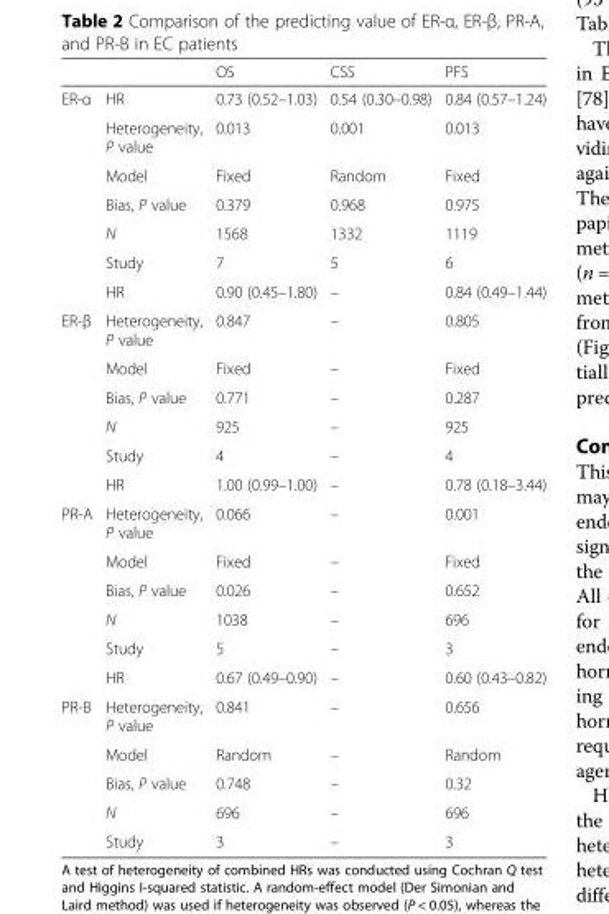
<table><thead><tr><td></td><td></td><td>OS</td><td>CSS</td><td>PFS</td></tr></thead><tbody><tr><td rowspan="7">ER-α</td><td>HR</td><td>0.73 (0.52–1.03)</td><td>0.54 (0.30–0.98)</td><td>0.84 (0.57–1.24)</td></tr><tr><td>Heterogeneity, P value</td><td>0.013</td><td>0.001</td><td>0.013</td></tr><tr><td>Model</td><td>Fixed</td><td>Random</td><td>Fixed</td></tr><tr><td>Bias, P value</td><td>0.379</td><td>0.968</td><td>0.975</td></tr><tr><td>N</td><td>1568</td><td>1332</td><td>1119</td></tr><tr><td>Study</td><td>7</td><td>5</td><td>6</td></tr><tr><td>HR</td><td>0.90 (0.45–1.80)</td><td>–</td><td>0.84 (0.49–1.44)</td></tr><tr><td rowspan="6">ER-β</td><td>Heterogeneity, P value</td><td>0.847</td><td>–</td><td>0.805</td></tr><tr><td>Model</td><td>Fixed</td><td>–</td><td>Fixed</td></tr><tr><td>Bias, P value</td><td>0.771</td><td>–</td><td>0.287</td></tr><tr><td>N</td><td>925</td><td>–</td><td>925</td></tr><tr><td>Study</td><td>4</td><td>–</td><td>4</td></tr><tr><td>HR</td><td>1.00 (0.99–1.00)</td><td>–</td><td>0.78 (0.18–3.44)</td></tr><tr><td rowspan="6">PR-A</td><td>Heterogeneity, P value</td><td>0.066</td><td>–</td><td>0.001</td></tr><tr><td>Model</td><td>Fixed</td><td>–</td><td>Fixed</td></tr><tr><td>Bias, P value</td><td>0.026</td><td>–</td><td>0.652</td></tr><tr><td>N</td><td>1038</td><td>–</td><td>696</td></tr><tr><td>Study</td><td>5</td><td>–</td><td>3</td></tr><tr><td>HR</td><td>0.67 (0.49–0.90)</td><td>–</td><td>0.60 (0.43–0.82)</td></tr><tr><td rowspan="5">PR-B</td><td>Heterogeneity, P value</td><td>0.841</td><td>–</td><td>0.656</td></tr><tr><td>Model</td><td>Random</td><td>–</td><td>Random</td></tr><tr><td>Bias, P value</td><td>0.748</td><td>–</td><td>0.32</td></tr><tr><td>N</td><td>696</td><td>–</td><td>696</td></tr><tr><td>Study</td><td>3</td><td>–</td><td>3</td></tr></tbody></table>